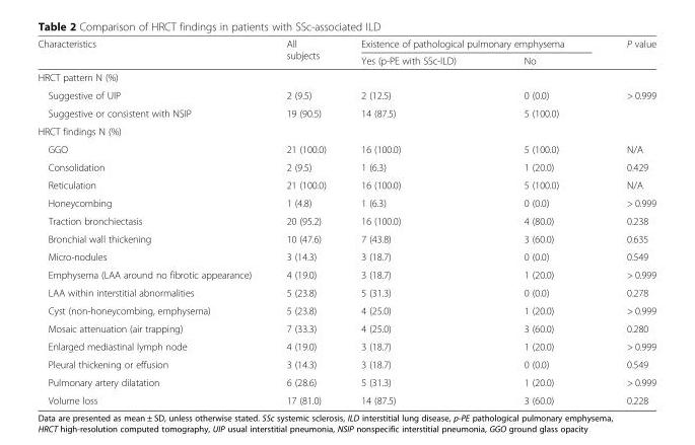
<table><thead><tr><td rowspan="2">Characteristics</td><td rowspan="2">All subjects</td><td colspan="2">Existence of pathological pulmonary emphysema</td><td rowspan="2">P value</td></tr><tr><td>Yes (p-PE with SSc-ILD)</td><td>No</td></tr></thead><tbody><tr><td colspan="5">HRCT pattern N (%)</td></tr><tr><td>Suggestive of UIP</td><td>2 (9.5)</td><td>2 (12.5)</td><td>0 (0.0)</td><td rowspan="2">&gt; 0.999</td></tr><tr><td>Suggestive or consistent with NSIP</td><td>19 (90.5)</td><td>14 (87.5)</td><td>5 (100.0)</td></tr><tr><td colspan="5">HRCT findings N (%)</td></tr><tr><td>GGO</td><td>21 (100.0)</td><td>16 (100.0)</td><td>5 (100.0)</td><td>N/A</td></tr><tr><td>Consolidation</td><td>2 (9.5)</td><td>1 (6.3)</td><td>1 (20.0)</td><td>0.429</td></tr><tr><td>Reticulation</td><td>21 (100.0)</td><td>16 (100.0)</td><td>5 (100.0)</td><td>N/A</td></tr><tr><td>Honeycombing</td><td>1 (4.8)</td><td>1 (6.3)</td><td>0 (0.0)</td><td>&gt; 0.999</td></tr><tr><td>Traction bronchiectasis</td><td>20 (95.2)</td><td>16 (100.0)</td><td>4 (80.0)</td><td>0.238</td></tr><tr><td>Bronchial wall thickening</td><td>10 (47.6)</td><td>7 (43.8)</td><td>3 (60.0)</td><td>0.635</td></tr><tr><td>Micro-nodules</td><td>3 (14.3)</td><td>3 (18.7)</td><td>0 (0.0)</td><td>0.549</td></tr><tr><td>Emphysema (LAA around no fibrotic appearance)</td><td>4 (19.0)</td><td>3 (18.7)</td><td>1 (20.0)</td><td>&gt; 0.999</td></tr><tr><td>LAA within interstitial abnormalities</td><td>5 (23.8)</td><td>5 (31.3)</td><td>0 (0.0)</td><td>0.278</td></tr><tr><td>Cyst (non-honeycombing, emphysema)</td><td>5 (23.8)</td><td>4 (25.0)</td><td>1 (20.0)</td><td>&gt; 0.999</td></tr><tr><td>Mosaic attenuation (air trapping)</td><td>7 (33.3)</td><td>4 (25.0)</td><td>3 (60.0)</td><td>0.280</td></tr><tr><td>Enlarged mediastinal lymph node</td><td>4 (19.0)</td><td>3 (18.7)</td><td>1 (20.0)</td><td>&gt; 0.999</td></tr><tr><td>Pleural thickening or effusion</td><td>3 (14.3)</td><td>3 (18.7)</td><td>0 (0.0)</td><td>0.549</td></tr><tr><td>Pulmonary artery dilatation</td><td>6 (28.6)</td><td>5 (31.3)</td><td>1 (20.0)</td><td>&gt; 0.999</td></tr><tr><td>Volume loss</td><td>17 (81.0)</td><td>14 (87.5)</td><td>3 (60.0)</td><td>0.228</td></tr></tbody></table>